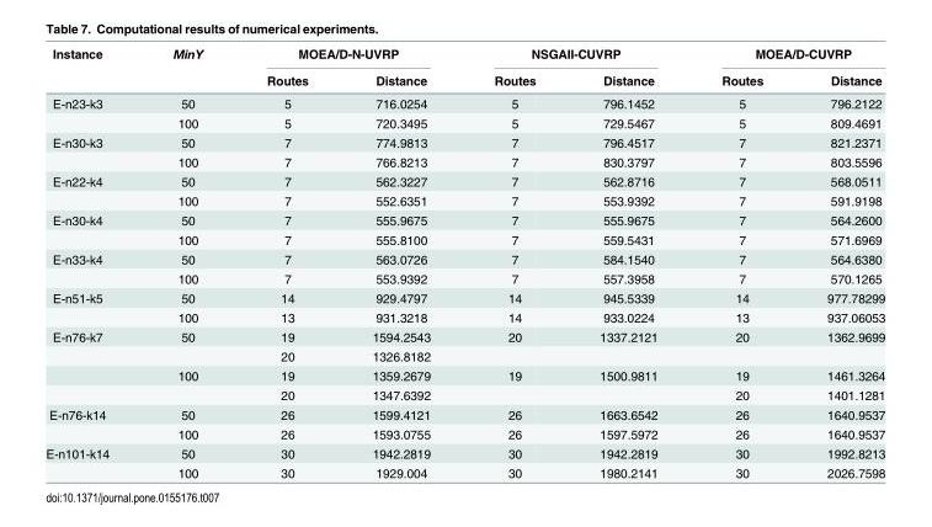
<table><thead><tr><td rowspan="2">Instance</td><td rowspan="2">MinY</td><td colspan="2">MOEA/D-N-UVRP</td><td colspan="2">NSGAII-CUVRP</td><td colspan="2">MOEA/D-CUVRP</td></tr><tr><td>Routes</td><td>Distance</td><td>Routes</td><td>Distance</td><td>Routes</td><td>Distance</td></tr></thead><tbody><tr><td rowspan="2">E-n23-k3</td><td>50</td><td>5</td><td>716.0254</td><td>5</td><td>796.1452</td><td>5</td><td>796.2122</td></tr><tr><td>100</td><td>5</td><td>720.3495</td><td>5</td><td>729.5467</td><td>5</td><td>809.4691</td></tr><tr><td rowspan="2">E-n30-k3</td><td>50</td><td>7</td><td>774.9813</td><td>7</td><td>796.4517</td><td>7</td><td>821.2371</td></tr><tr><td>100</td><td>7</td><td>766.8213</td><td>7</td><td>830.3797</td><td>7</td><td>803.5596</td></tr><tr><td rowspan="2">E-n22-k4</td><td>50</td><td>7</td><td>562.3227</td><td>7</td><td>562.8716</td><td>7</td><td>568.0511</td></tr><tr><td>100</td><td>7</td><td>552.6351</td><td>7</td><td>553.9392</td><td>7</td><td>591.9198</td></tr><tr><td rowspan="2">E-n30-k4</td><td>50</td><td>7</td><td>555.9675</td><td>7</td><td>555.9675</td><td>7</td><td>564.2600</td></tr><tr><td>100</td><td>7</td><td>555.8100</td><td>7</td><td>559.5431</td><td>7</td><td>571.6969</td></tr><tr><td rowspan="2">E-n33-k4</td><td>50</td><td>7</td><td>563.0726</td><td>7</td><td>584.1540</td><td>7</td><td>564.6380</td></tr><tr><td>100</td><td>7</td><td>553.9392</td><td>7</td><td>557.3958</td><td>7</td><td>570.1265</td></tr><tr><td rowspan="2">E-n51-k5</td><td>50</td><td>14</td><td>929.4797</td><td>14</td><td>945.5339</td><td>14</td><td>977.78299</td></tr><tr><td>100</td><td>13</td><td>931.3218</td><td>14</td><td>933.0224</td><td>13</td><td>937.06053</td></tr><tr><td rowspan="4">E-n76-k7</td><td>50</td><td>19</td><td>1594.2543</td><td>20</td><td>1337.2121</td><td>20</td><td>1362.9699</td></tr><tr><td></td><td>20</td><td>1326.8182</td><td></td><td></td><td></td><td></td></tr><tr><td>100</td><td>19</td><td>1359.2679</td><td>19</td><td>1500.9811</td><td>19</td><td>1461.3264</td></tr><tr><td></td><td>20</td><td>1347.6392</td><td></td><td></td><td>20</td><td>1401.1281</td></tr><tr><td rowspan="2">E-n76-k14</td><td>50</td><td>26</td><td>1599.4121</td><td>26</td><td>1663.6542</td><td>26</td><td>1640.9537</td></tr><tr><td>100</td><td>26</td><td>1593.0755</td><td>26</td><td>1597.5972</td><td>26</td><td>1640.9537</td></tr><tr><td rowspan="2">E-n101-k14</td><td>50</td><td>30</td><td>1942.2819</td><td>30</td><td>1942.2819</td><td>30</td><td>1992.8213</td></tr><tr><td>100</td><td>30</td><td>1929.004</td><td>30</td><td>1980.2141</td><td>30</td><td>2026.7598</td></tr></tbody></table>